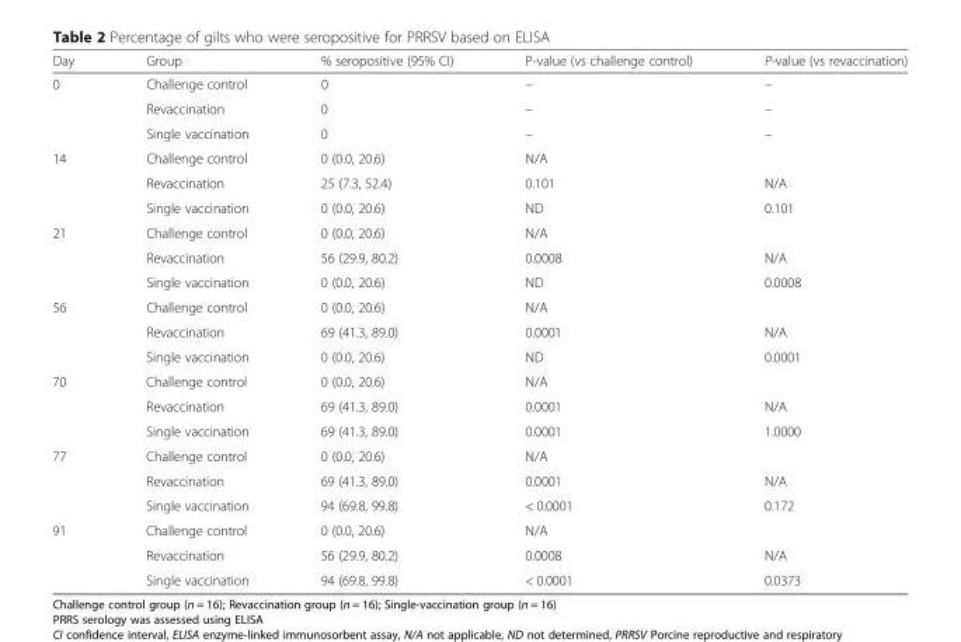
<table><thead><tr><td>Day</td><td>Group</td><td>% seropositive (95% CI)</td><td>P-value (vs challenge control)</td><td>P-value (vs revaccination)</td></tr></thead><tbody><tr><td rowspan="3">0</td><td>Challenge control</td><td>0</td><td>–</td><td>–</td></tr><tr><td>Revaccination</td><td>0</td><td>–</td><td>–</td></tr><tr><td>Single vaccination</td><td>0</td><td>–</td><td>–</td></tr><tr><td rowspan="3">14</td><td>Challenge control</td><td>0 (0.0, 20.6)</td><td>N/A</td><td></td></tr><tr><td>Revaccination</td><td>25 (7.3, 52.4)</td><td>0.101</td><td>N/A</td></tr><tr><td>Single vaccination</td><td>0 (0.0, 20.6)</td><td>ND</td><td>0.101</td></tr><tr><td rowspan="3">21</td><td>Challenge control</td><td>0 (0.0, 20.6)</td><td>N/A</td><td></td></tr><tr><td>Revaccination</td><td>56 (29.9, 80.2)</td><td>0.0008</td><td>N/A</td></tr><tr><td>Single vaccination</td><td>0 (0.0, 20.6)</td><td>ND</td><td>0.0008</td></tr><tr><td rowspan="3">56</td><td>Challenge control</td><td>0 (0.0, 20.6)</td><td>N/A</td><td></td></tr><tr><td>Revaccination</td><td>69 (41.3, 89.0)</td><td>0.0001</td><td>N/A</td></tr><tr><td>Single vaccination</td><td>0 (0.0, 20.6)</td><td>ND</td><td>0.0001</td></tr><tr><td rowspan="3">70</td><td>Challenge control</td><td>0 (0.0, 20.6)</td><td>N/A</td><td></td></tr><tr><td>Revaccination</td><td>69 (41.3, 89.0)</td><td>0.0001</td><td>N/A</td></tr><tr><td>Single vaccination</td><td>69 (41.3, 89.0)</td><td>0.0001</td><td>1.0000</td></tr><tr><td rowspan="3">77</td><td>Challenge control</td><td>0 (0.0, 20.6)</td><td>N/A</td><td></td></tr><tr><td>Revaccination</td><td>69 (41.3, 89.0)</td><td>0.0001</td><td>N/A</td></tr><tr><td>Single vaccination</td><td>94 (69.8, 99.8)</td><td>&lt; 0.0001</td><td>0.172</td></tr><tr><td rowspan="3">91</td><td>Challenge control</td><td>0 (0.0, 20.6)</td><td>N/A</td><td></td></tr><tr><td>Revaccination</td><td>56 (29.9, 80.2)</td><td>0.0008</td><td>N/A</td></tr><tr><td>Single vaccination</td><td>94 (69.8, 99.8)</td><td>&lt; 0.0001</td><td>0.0373</td></tr></tbody></table>